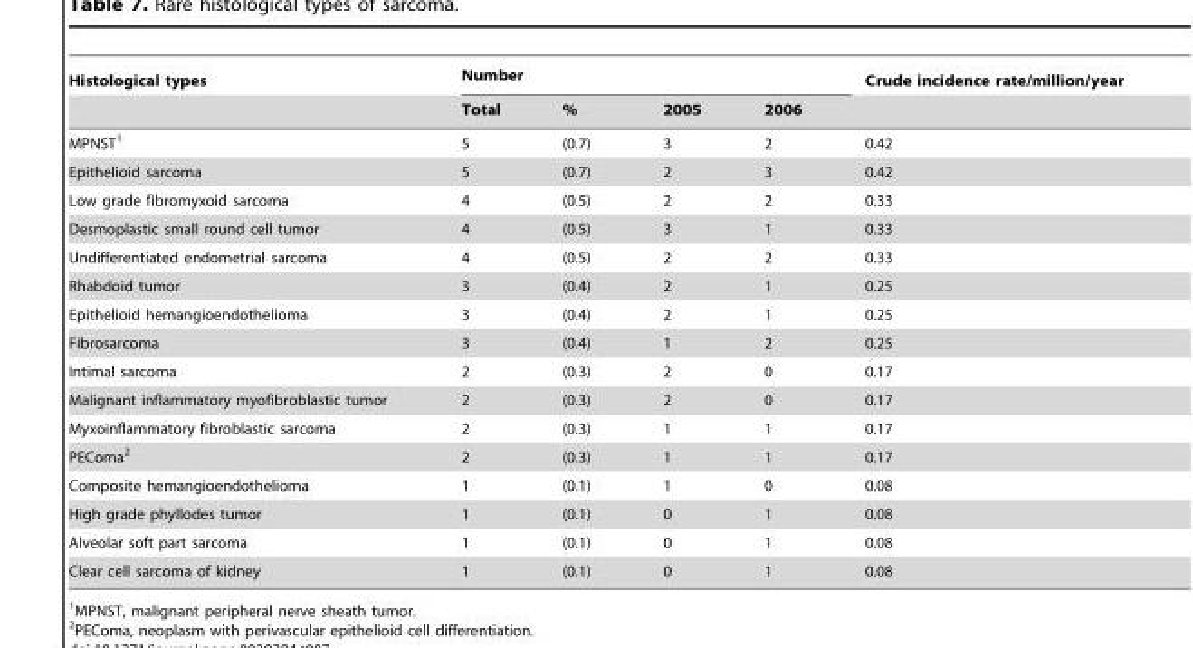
<table><thead><tr><td rowspan="2">Histological types</td><td colspan="4">Number</td><td rowspan="2">Crude incidence rate/million/year</td></tr><tr><td>Total</td><td>%</td><td>2005</td><td>2006</td></tr></thead><tbody><tr><td>MPNST<sup>1</sup></td><td>5</td><td>(0.7)</td><td>3</td><td>2</td><td>0.42</td></tr><tr><td>Epithelioid sarcoma</td><td>5</td><td>(0.7)</td><td>2</td><td>3</td><td>0.42</td></tr><tr><td>Low grade fibromyxoid sarcoma</td><td>4</td><td>(0.5)</td><td>2</td><td>2</td><td>0.33</td></tr><tr><td>Desmoplastic small round cell tumor</td><td>4</td><td>(0.5)</td><td>3</td><td>1</td><td>0.33</td></tr><tr><td>Undifferentiated endometrial sarcoma</td><td>4</td><td>(0.5)</td><td>2</td><td>2</td><td>0.33</td></tr><tr><td>Rhabdoid tumor</td><td>3</td><td>(0.4)</td><td>2</td><td>1</td><td>0.25</td></tr><tr><td>Epithelioid hemangioendothelioma</td><td>3</td><td>(0.4)</td><td>2</td><td>1</td><td>0.25</td></tr><tr><td>Fibrosarcoma</td><td>3</td><td>(0.4)</td><td>1</td><td>2</td><td>0.25</td></tr><tr><td>Intimal sarcoma</td><td>2</td><td>(0.3)</td><td>2</td><td>0</td><td>0.17</td></tr><tr><td>Malignant inflammatory myofibroblastic tumor</td><td>2</td><td>(0.3)</td><td>2</td><td>0</td><td>0.17</td></tr><tr><td>Myxoinflammatory fibroblastic sarcoma</td><td>2</td><td>(0.3)</td><td>1</td><td>1</td><td>0.17</td></tr><tr><td>PEComa<sup>2</sup></td><td>2</td><td>(0.3)</td><td>1</td><td>1</td><td>0.17</td></tr><tr><td>Composite hemangioendothelioma</td><td>1</td><td>(0.1)</td><td>1</td><td>0</td><td>0.08</td></tr><tr><td>High grade phyllodes tumor</td><td>1</td><td>(0.1)</td><td>0</td><td>1</td><td>0.08</td></tr><tr><td>Alveolar soft part sarcoma</td><td>1</td><td>(0.1)</td><td>0</td><td>1</td><td>0.08</td></tr><tr><td>Clear cell sarcoma of kidney</td><td>1</td><td>(0.1)</td><td>0</td><td>1</td><td>0.08</td></tr></tbody></table>